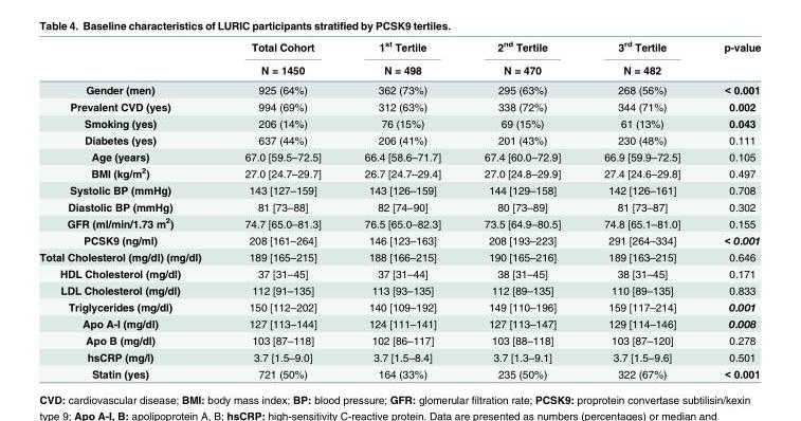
<table><thead><tr><td rowspan="2"></td><td rowspan="2">Total Cohort N = 1450</td><td rowspan="2">1<sup>st</sup> Tertile N = 498</td><td rowspan="2">2<sup>nd</sup> Tertile N = 470</td><td rowspan="2">3<sup>rd</sup> Tertile N = 482</td><td rowspan="2">p-value</td></tr><tr></tr></thead><tbody><tr><td>Gender (men)</td><td>925 (64%)</td><td>362 (73%)</td><td>295 (63%)</td><td>268 (56%)</td><td>&lt; 0.001</td></tr><tr><td>Prevalent CVD (yes)</td><td>994 (69%)</td><td>312 (63%)</td><td>338 (72%)</td><td>344 (71%)</td><td>0.002</td></tr><tr><td>Smoking (yes)</td><td>206 (14%)</td><td>76 (15%)</td><td>69 (15%)</td><td>61 (13%)</td><td>0.043</td></tr><tr><td>Diabetes (yes)</td><td>637 (44%)</td><td>206 (41%)</td><td>201 (43%)</td><td>230 (48%)</td><td>0.111</td></tr><tr><td>Age (years)</td><td>67.0 [59.5–72.5]</td><td>66.4 [58.6–71.7]</td><td>67.4 [60.0–72.9]</td><td>66.9 [59.9–72.5]</td><td>0.105</td></tr><tr><td>BMI (kg/m<sup>2</sup>)</td><td>27.0 [24.7–29.7]</td><td>26.7 [24.7–29.4]</td><td>27.0 [24.8–29.9]</td><td>27.4 [24.6–29.8]</td><td>0.497</td></tr><tr><td>Systolic BP (mmHg)</td><td>143 [127–159]</td><td>143 [126–159]</td><td>144 [129–158]</td><td>142 [126–161]</td><td>0.708</td></tr><tr><td>Diastolic BP (mmHg)</td><td>81 [73–88]</td><td>82 [74–90]</td><td>80 [73–89]</td><td>81 [73–87]</td><td>0.302</td></tr><tr><td>GFR (ml/min/1.73 m<sup>2</sup>)</td><td>74.7 [65.0–81.3]</td><td>76.5 [65.0–82.3]</td><td>73.5 [64.9–80.5]</td><td>74.8 [65.1–81.0]</td><td>0.155</td></tr><tr><td>PCSK9 (ng/ml)</td><td>208 [161–264]</td><td>146 [123–163]</td><td>208 [193–223]</td><td>291 [264–334]</td><td>&lt; 0.001</td></tr><tr><td>Total Cholesterol (mg/dl) (mg/dl)</td><td>189 [165–215]</td><td>188 [166–215]</td><td>190 [165–216]</td><td>189 [163–215]</td><td>0.646</td></tr><tr><td>HDL Cholesterol (mg/dl)</td><td>37 [31–45]</td><td>37 [31–44]</td><td>38 [31–45]</td><td>38 [31–45]</td><td>0.171</td></tr><tr><td>LDL Cholesterol (mg/dl)</td><td>112 [91–135]</td><td>113 [93–135]</td><td>112 [89–135]</td><td>110 [89–135]</td><td>0.833</td></tr><tr><td>Triglycerides (mg/dl)</td><td>150 [112–202]</td><td>140 [109–192]</td><td>149 [110–196]</td><td>159 [117–214]</td><td>0.001</td></tr><tr><td>Apo A-I (mg/dl)</td><td>127 [113–144]</td><td>124 [111–141]</td><td>127 [113–147]</td><td>129 [114–146]</td><td>0.008</td></tr><tr><td>Apo B (mg/dl)</td><td>103 [87–118]</td><td>102 [86–117]</td><td>103 [88–118]</td><td>103 [87–120]</td><td>0.278</td></tr><tr><td>hsCRP (mg/l)</td><td>3.7 [1.5–9.0]</td><td>3.7 [1.5–8.4]</td><td>3.7 [1.3–9.1]</td><td>3.7 [1.5–9.6]</td><td>0.501</td></tr><tr><td>Statin (yes)</td><td>721 (50%)</td><td>164 (33%)</td><td>235 (50%)</td><td>322 (67%)</td><td>&lt; 0.001</td></tr></tbody></table>